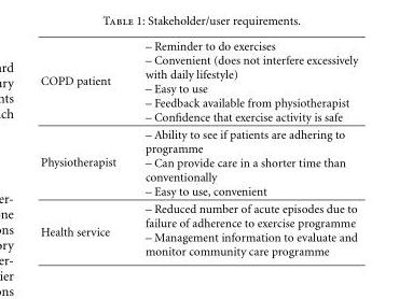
<table><tbody><tr><td rowspan="5">COPD patient</td><td>– Reminder to do exercises</td></tr><tr><td>– Convenient (does not interfere excessively with daily lifestyle)</td></tr><tr><td>– Easy to use</td></tr><tr><td>– Feedback available from physiotherapist</td></tr><tr><td>– Confidence that exercise activity is safe</td></tr><tr><td rowspan="3">Physiotherapist</td><td>– Ability to see if patients are adhering to programme</td></tr><tr><td>– Can provide care in a shorter time than conventionally</td></tr><tr><td>– Easy to use, convenient</td></tr><tr><td rowspan="2">Health service</td><td>– Reduced number of acute episodes due to failure of adherence to exercise programme</td></tr><tr><td>– Management information to evaluate and monitor community care programme</td></tr></tbody></table>